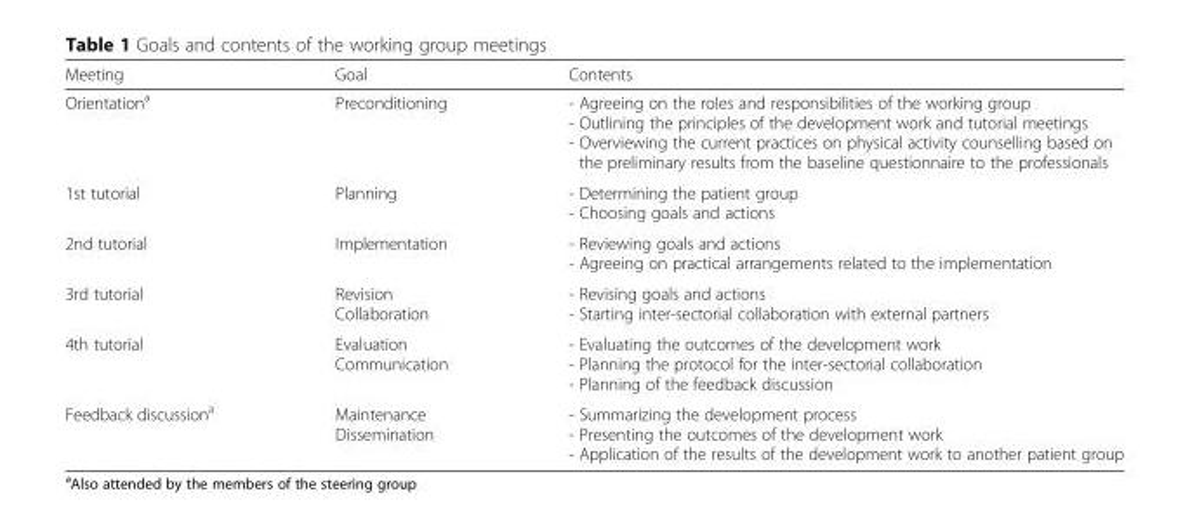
<table><thead><tr><td>Meeting</td><td>Goal</td><td>Contents</td></tr></thead><tbody><tr><td>Orientation<sup>a</sup></td><td>Preconditioning</td><td>- Agreeing on the roles and responsibilities of the working group - Outlining the principles of the development work and tutorial meetings - Overviewing the current practices on physical activity counselling based on the preliminary results from the baseline questionnaire to the professionals</td></tr><tr><td>1st tutorial</td><td>Planning</td><td>- Determining the patient group - Choosing goals and actions</td></tr><tr><td>2nd tutorial</td><td>Implementation</td><td>- Reviewing goals and actions - Agreeing on practical arrangements related to the implementation</td></tr><tr><td>3rd tutorial</td><td>Revision Collaboration</td><td>- Revising goals and actions - Starting inter-sectorial collaboration with external partners</td></tr><tr><td>4th tutorial</td><td>Evaluation Communication</td><td>- Evaluating the outcomes of the development work - Planning the protocol for the inter-sectorial collaboration - Planning of the feedback discussion</td></tr><tr><td>Feedback discussion<sup>a</sup></td><td>Maintenance Dissemination</td><td>- Summarizing the development process - Presenting the outcomes of the development work - Application of the results of the development work to another patient group</td></tr></tbody></table>